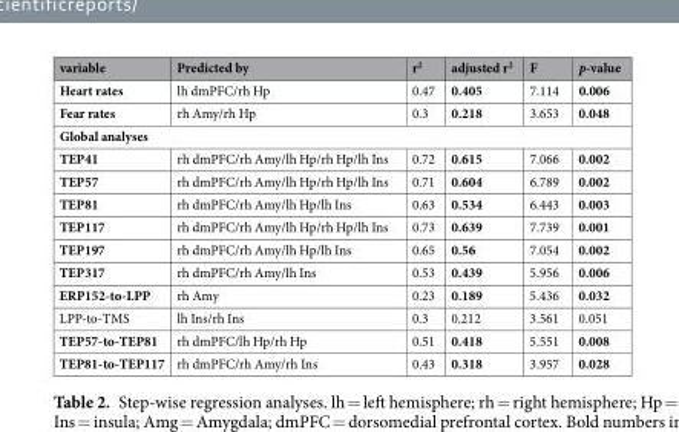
<table><thead><tr><td>variable</td><td>Predicted by</td><td>r<sup>2</sup></td><td>adjusted r<sup>2</sup></td><td>F</td><td>p-value</td></tr></thead><tbody><tr><td>Heart rates</td><td>lh dmPFC/rh Hp</td><td>0.47</td><td>0.405</td><td>7.114</td><td>0.006</td></tr><tr><td>Fear rates</td><td>rh Amy/rh Hp</td><td>0.3</td><td>0.218</td><td>3.653</td><td>0.048</td></tr><tr><td colspan="6">Global analyses</td></tr><tr><td>TEP41</td><td>rh dmPFC/rh Amy/lh Hp/rh Hp/lh Ins</td><td>0.72</td><td>0.615</td><td>7.066</td><td>0.002</td></tr><tr><td>TEP57</td><td>rh dmPFC/rh Amy/lh Hp/rh Hp/lh Ins</td><td>0.71</td><td>0.604</td><td>6.789</td><td>0.002</td></tr><tr><td>TEP81</td><td>rh dmPFC/rh Amy/lh Hp/lh Ins</td><td>0.63</td><td>0.534</td><td>6.443</td><td>0.003</td></tr><tr><td>TEP117</td><td>rh dmPFC/rh Amy/lh Hp/rh Hp/lh Ins</td><td>0.73</td><td>0.639</td><td>7.739</td><td>0.001</td></tr><tr><td>TEP197</td><td>rh dmPFC/rh Amy/lh Hp/lh Ins</td><td>0.65</td><td>0.56</td><td>7.054</td><td>0.002</td></tr><tr><td>TEP317</td><td>rh dmPFC/rh Amy/lh Ins</td><td>0.53</td><td>0.439</td><td>5.956</td><td>0.006</td></tr><tr><td>ERP152-to-LPP</td><td>rh Amy</td><td>0.23</td><td>0.189</td><td>5.436</td><td>0.032</td></tr><tr><td>LPP-to-TMS</td><td>lh Ins/rh Ins</td><td>0.3</td><td>0.212</td><td>3.561</td><td>0.051</td></tr><tr><td>TEP57-to-TEP81</td><td>rh dmPFC/lh Hp/rh Hp</td><td>0.51</td><td>0.418</td><td>5.551</td><td>0.008</td></tr><tr><td>TEP81-to-TEP117</td><td>rh dmPFC/rh Amy/rh Ins</td><td>0.43</td><td>0.318</td><td>3.957</td><td>0.028</td></tr></tbody></table>